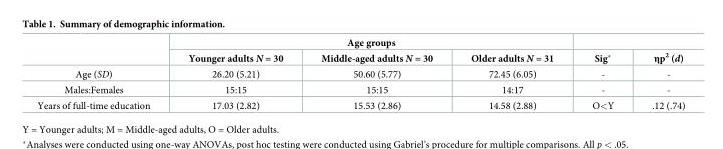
<table><thead><tr><td rowspan="2"></td><td colspan="3">Age groups</td><td rowspan="2">Sig*</td><td rowspan="2">ηp<sup>2</sup> (d)</td></tr><tr><td>Younger adults N = 30</td><td>Middle-aged adults N = 30</td><td>Older adults N = 31</td></tr></thead><tbody><tr><td>Age (SD)</td><td>26.20 (5.21)</td><td>50.60 (5.77)</td><td>72.45 (6.05)</td><td>-</td><td>-</td></tr><tr><td>Males:Females</td><td>15:15</td><td>15:15</td><td>14:17</td><td>-</td><td>-</td></tr><tr><td>Years of full-time education</td><td>17.03 (2.82)</td><td>15.53 (2.86)</td><td>14.58 (2.88)</td><td>O&lt;Y</td><td>.12 (.74)</td></tr></tbody></table>